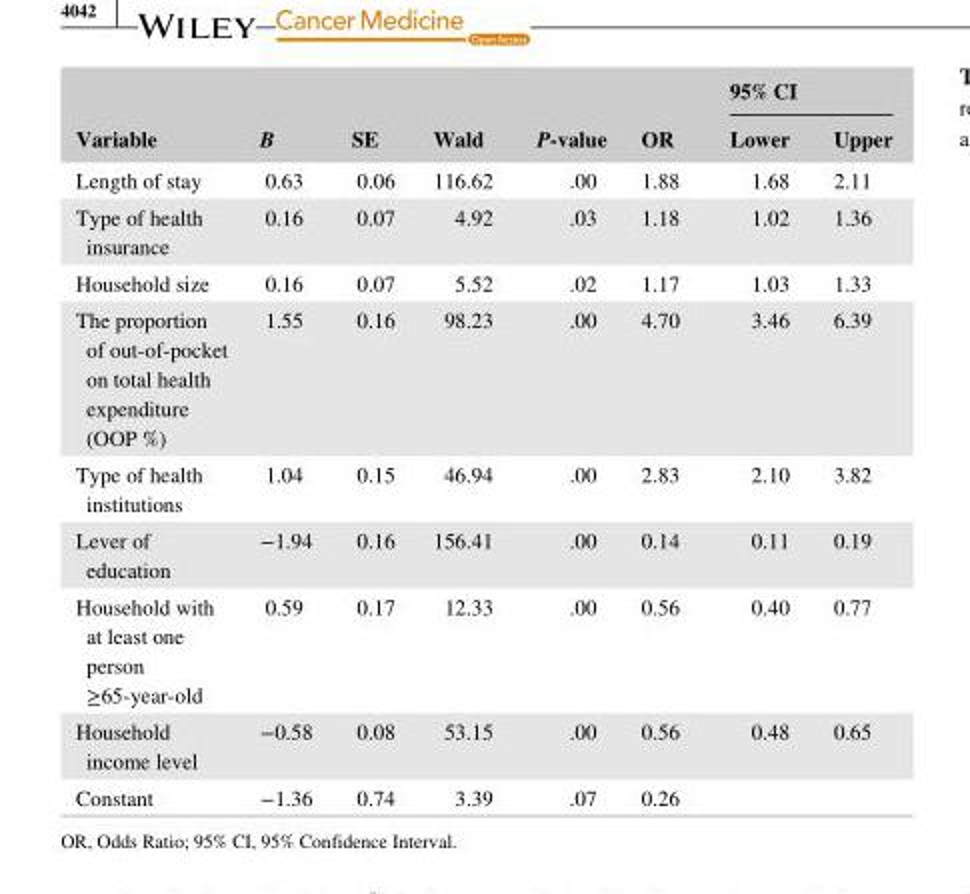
<table><thead><tr><td rowspan="2">Variable</td><td rowspan="2">B</td><td rowspan="2">SE</td><td rowspan="2">Wald</td><td rowspan="2">P- value</td><td rowspan="2">OR</td><td colspan="2">95% CI</td></tr><tr><td>Lower</td><td>Upper</td></tr></thead><tbody><tr><td>Length of stay</td><td>0.63</td><td>0.06</td><td>116.62</td><td>.00</td><td>1.88</td><td>1.68</td><td>2.11</td></tr><tr><td>Type of health insurance</td><td>0.16</td><td>0.07</td><td>4.92</td><td>.03</td><td>1.18</td><td>1.02</td><td>1.36</td></tr><tr><td>Household size</td><td>0.16</td><td>0.07</td><td>5.52</td><td>.02</td><td>1.17</td><td>1.03</td><td>1.33</td></tr><tr><td>The proportion of out- of- pocket on total health expenditure (OOP %)</td><td>1.55</td><td>0.16</td><td>98.23</td><td>.00</td><td>4.70</td><td>3.46</td><td>6.39</td></tr><tr><td>Type of health institutions</td><td>1.04</td><td>0.15</td><td>46.94</td><td>.00</td><td>2.83</td><td>2.10</td><td>3.82</td></tr><tr><td>Lever of education</td><td>−1.94</td><td>0.16</td><td>156.41</td><td>.00</td><td>0.14</td><td>0.11</td><td>0.19</td></tr><tr><td>Household with at least one person ≥65- year- old</td><td>0.59</td><td>0.17</td><td>12.33</td><td>.00</td><td>0.56</td><td>0.40</td><td>0.77</td></tr><tr><td>Household income level</td><td>−0.58</td><td>0.08</td><td>53.15</td><td>.00</td><td>0.56</td><td>0.48</td><td>0.65</td></tr><tr><td>Constant</td><td>−1.36</td><td>0.74</td><td>3.39</td><td>.07</td><td>0.26</td><td></td><td></td></tr></tbody></table>